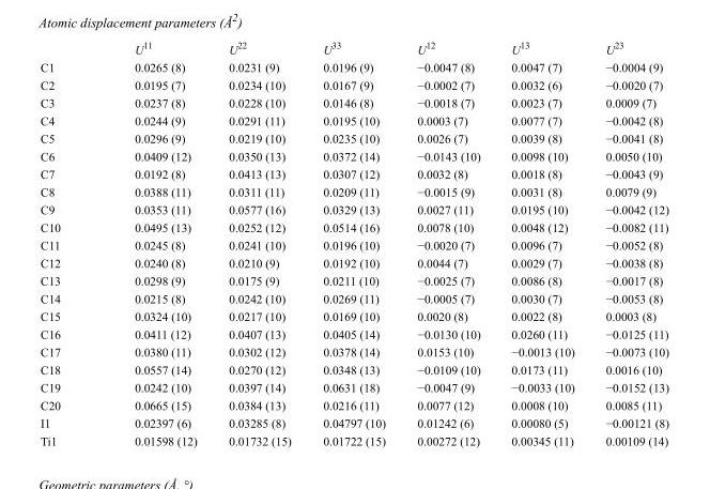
<table><thead><tr><td></td><td>U<sup>11</sup></td><td>U<sup>22</sup></td><td>U<sup>33</sup></td><td>U<sup>12</sup></td><td>U<sup>13</sup></td><td>U<sup>23</sup></td></tr></thead><tbody><tr><td>C1</td><td>0.0265 (8)</td><td>0.0231 (9)</td><td>0.0196 (9)</td><td>−0.0047 (8)</td><td>0.0047 (7)</td><td>−0.0004 (9)</td></tr><tr><td>C2</td><td>0.0195 (7)</td><td>0.0234 (10)</td><td>0.0167 (9)</td><td>−0.0002 (7)</td><td>0.0032 (6)</td><td>−0.0020 (7)</td></tr><tr><td>C3</td><td>0.0237 (8)</td><td>0.0228 (10)</td><td>0.0146 (8)</td><td>−0.0018 (7)</td><td>0.0023 (7)</td><td>0.0009 (7)</td></tr><tr><td>C4</td><td>0.0244 (9)</td><td>0.0291 (11)</td><td>0.0195 (10)</td><td>0.0003 (7)</td><td>0.0077 (7)</td><td>−0.0042 (8)</td></tr><tr><td>C5</td><td>0.0296 (9)</td><td>0.0219 (10)</td><td>0.0235 (10)</td><td>0.0026 (7)</td><td>0.0039 (8)</td><td>−0.0041 (8)</td></tr><tr><td>C6</td><td>0.0409 (12)</td><td>0.0350 (13)</td><td>0.0372 (14)</td><td>−0.0143 (10)</td><td>0.0098 (10)</td><td>0.0050 (10)</td></tr><tr><td>C7</td><td>0.0192 (8)</td><td>0.0413 (13)</td><td>0.0307 (12)</td><td>0.0032 (8)</td><td>0.0018 (8)</td><td>−0.0043 (9)</td></tr><tr><td>C8</td><td>0.0388 (11)</td><td>0.0311 (11)</td><td>0.0209 (11)</td><td>−0.0015 (9)</td><td>0.0031 (8)</td><td>0.0079 (9)</td></tr><tr><td>C9</td><td>0.0353 (11)</td><td>0.0577 (16)</td><td>0.0329 (13)</td><td>0.0027 (11)</td><td>0.0195 (10)</td><td>−0.0042 (12)</td></tr><tr><td>C10</td><td>0.0495 (13)</td><td>0.0252 (12)</td><td>0.0514 (16)</td><td>0.0078 (10)</td><td>0.0048 (12)</td><td>−0.0082 (11)</td></tr><tr><td>C11</td><td>0.0245 (8)</td><td>0.0241 (10)</td><td>0.0196 (10)</td><td>−0.0020 (7)</td><td>0.0096 (7)</td><td>−0.0052 (8)</td></tr><tr><td>C12</td><td>0.0240 (8)</td><td>0.0210 (9)</td><td>0.0192 (10)</td><td>0.0044 (7)</td><td>0.0029 (7)</td><td>−0.0038 (8)</td></tr><tr><td>C13</td><td>0.0298 (9)</td><td>0.0175 (9)</td><td>0.0211 (10)</td><td>−0.0025 (7)</td><td>0.0086 (8)</td><td>−0.0017 (8)</td></tr><tr><td>C14</td><td>0.0215 (8)</td><td>0.0242 (10)</td><td>0.0269 (11)</td><td>−0.0005 (7)</td><td>0.0030 (7)</td><td>−0.0053 (8)</td></tr><tr><td>C15</td><td>0.0324 (10)</td><td>0.0217 (10)</td><td>0.0169 (10)</td><td>0.0020 (8)</td><td>0.0022 (8)</td><td>0.0003 (8)</td></tr><tr><td>C16</td><td>0.0411 (12)</td><td>0.0407 (13)</td><td>0.0405 (14)</td><td>−0.0130 (10)</td><td>0.0260 (11)</td><td>−0.0125 (11)</td></tr><tr><td>C17</td><td>0.0380 (11)</td><td>0.0302 (12)</td><td>0.0378 (14)</td><td>0.0153 (10)</td><td>−0.0013 (10)</td><td>−0.0073 (10)</td></tr><tr><td>C18</td><td>0.0557 (14)</td><td>0.0270 (12)</td><td>0.0348 (13)</td><td>−0.0109 (10)</td><td>0.0173 (11)</td><td>0.0016 (10)</td></tr><tr><td>C19</td><td>0.0242 (10)</td><td>0.0397 (14)</td><td>0.0631 (18)</td><td>−0.0047 (9)</td><td>−0.0033 (10)</td><td>−0.0152 (13)</td></tr><tr><td>C20</td><td>0.0665 (15)</td><td>0.0384 (13)</td><td>0.0216 (11)</td><td>0.0077 (12)</td><td>0.0008 (10)</td><td>0.0085 (11)</td></tr><tr><td>I1</td><td>0.02397 (6)</td><td>0.03285 (8)</td><td>0.04797 (10)</td><td>0.01242 (6)</td><td>0.00080 (5)</td><td>−0.00121 (8)</td></tr><tr><td>Ti1</td><td>0.01598 (12)</td><td>0.01732 (15)</td><td>0.01722 (15)</td><td>0.00272 (12)</td><td>0.00345 (11)</td><td>0.00109 (14)</td></tr></tbody></table>